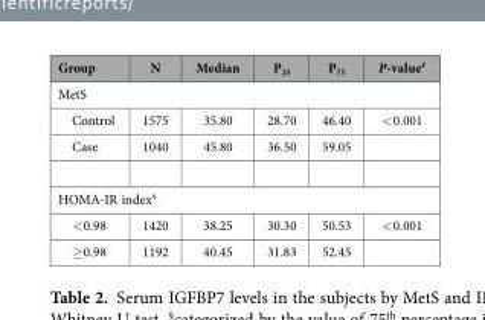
<table><thead><tr><td>Group</td><td>N</td><td>Median</td><td>P<sub>25</sub></td><td>P<sub>75</sub></td><td>P-value#</td></tr></thead><tbody><tr><td colspan="6">MetS</td></tr><tr><td>Control</td><td>1575</td><td>35.80</td><td>28.70</td><td>46.40</td><td>&lt; 0.001</td></tr><tr><td>Case</td><td>1040</td><td>45.80</td><td>36.50</td><td>59.05</td><td></td></tr><tr><td colspan="6">HOMA-IR index§</td></tr><tr><td>&lt; 0.98</td><td>1420</td><td>38.25</td><td>30.30</td><td>50.53</td><td>&lt; 0.001</td></tr><tr><td>≥ 0.98</td><td>1192</td><td>40.45</td><td>31.83</td><td>52.45</td><td></td></tr></tbody></table>